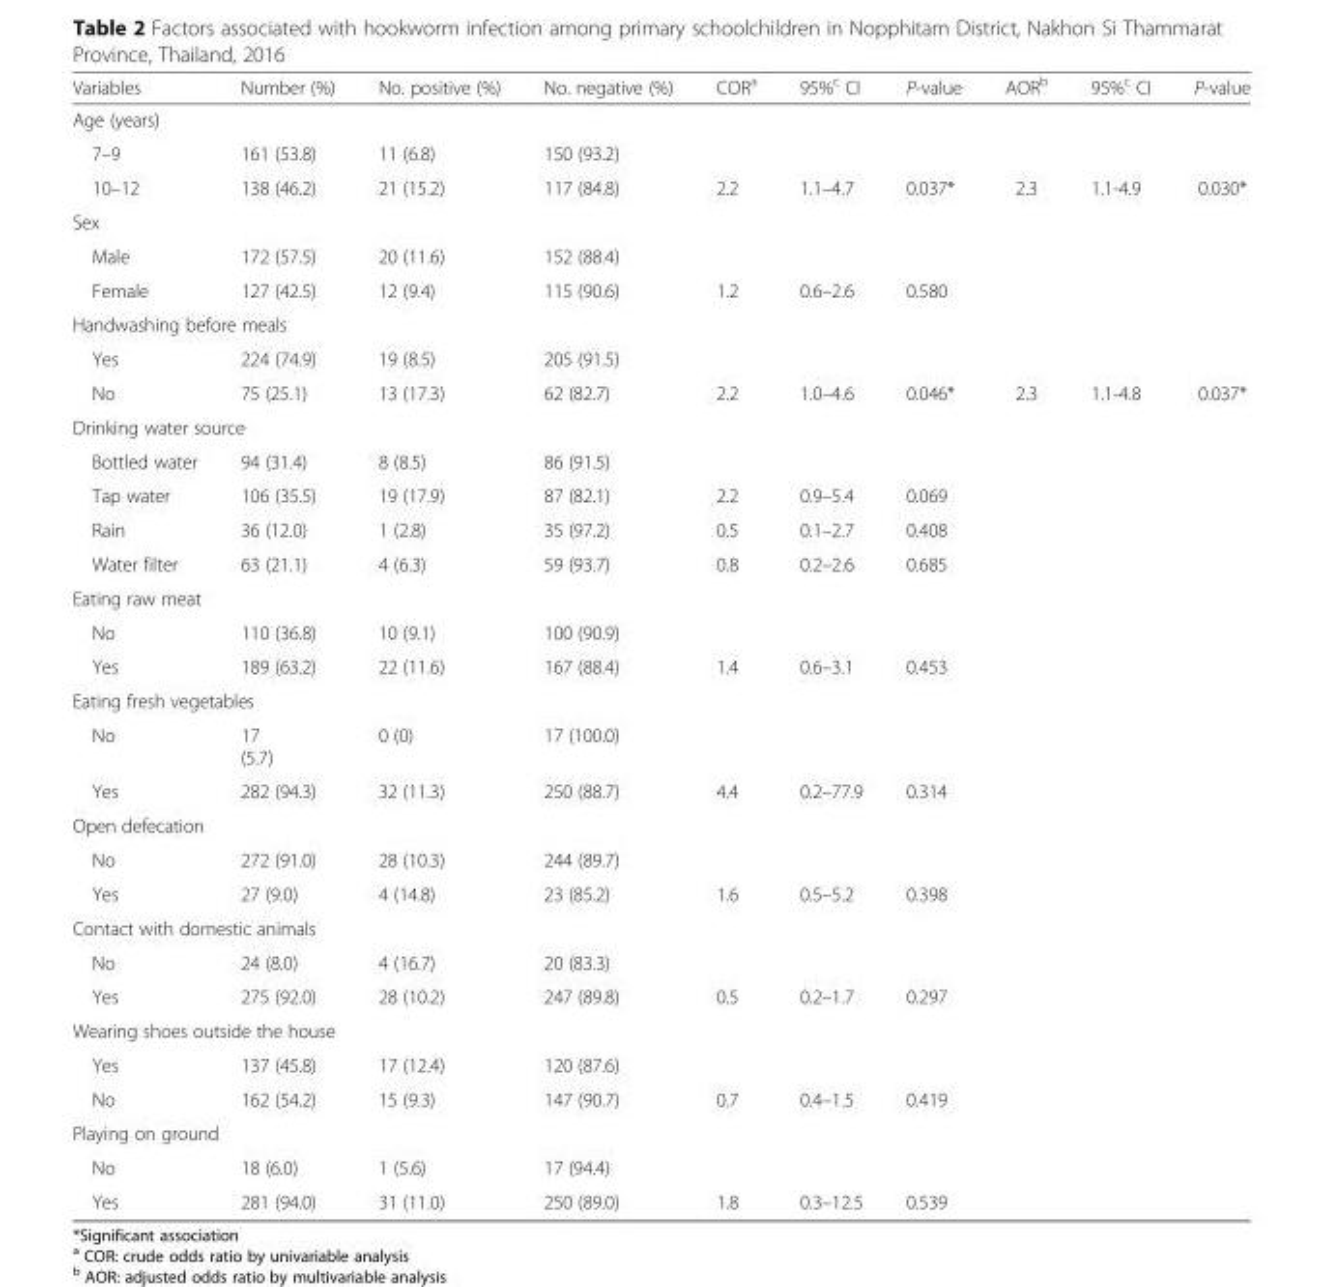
<table><thead><tr><td>Variables</td><td>Number (%)</td><td>No. positive (%)</td><td>No. negative (%)</td><td>COR<sup>a</sup></td><td>95%<sup>c</sup> CI</td><td>P-value</td><td>AOR<sup>b</sup></td><td>95%<sup>c</sup> CI</td><td>P-value</td></tr></thead><tbody><tr><td colspan="10">Age (years)</td></tr><tr><td>7–9</td><td>161 (53.8)</td><td>11 (6.8)</td><td>150 (93.2)</td><td></td><td></td><td></td><td></td><td></td><td></td></tr><tr><td>10–12</td><td>138 (46.2)</td><td>21 (15.2)</td><td>117 (84.8)</td><td>2.2</td><td>1.1–4.7</td><td>0.037*</td><td>2.3</td><td>1.1-4.9</td><td>0.030*</td></tr><tr><td colspan="10">Sex</td></tr><tr><td>Male</td><td>172 (57.5)</td><td>20 (11.6)</td><td>152 (88.4)</td><td></td><td></td><td></td><td></td><td></td><td></td></tr><tr><td>Female</td><td>127 (42.5)</td><td>12 (9.4)</td><td>115 (90.6)</td><td>1.2</td><td>0.6–2.6</td><td>0.580</td><td></td><td></td><td></td></tr><tr><td colspan="10">Handwashing before meals</td></tr><tr><td>Yes</td><td>224 (74.9)</td><td>19 (8.5)</td><td>205 (91.5)</td><td></td><td></td><td></td><td></td><td></td><td></td></tr><tr><td>No</td><td>75 (25.1)</td><td>13 (17.3)</td><td>62 (82.7)</td><td>2.2</td><td>1.0–4.6</td><td>0.046*</td><td>2.3</td><td>1.1-4.8</td><td>0.037*</td></tr><tr><td colspan="10">Drinking water source</td></tr><tr><td>Bottled water</td><td>94 (31.4)</td><td>8 (8.5)</td><td>86 (91.5)</td><td></td><td></td><td></td><td></td><td></td><td></td></tr><tr><td>Tap water</td><td>106 (35.5)</td><td>19 (17.9)</td><td>87 (82.1)</td><td>2.2</td><td>0.9–5.4</td><td>0.069</td><td></td><td></td><td></td></tr><tr><td>Rain</td><td>36 (12.0)</td><td>1 (2.8)</td><td>35 (97.2)</td><td>0.5</td><td>0.1–2.7</td><td>0.408</td><td></td><td></td><td></td></tr><tr><td>Water filter</td><td>63 (21.1)</td><td>4 (6.3)</td><td>59 (93.7)</td><td>0.8</td><td>0.2–2.6</td><td>0.685</td><td></td><td></td><td></td></tr><tr><td colspan="10">Eating raw meat</td></tr><tr><td>No</td><td>110 (36.8)</td><td>10 (9.1)</td><td>100 (90.9)</td><td></td><td></td><td></td><td></td><td></td><td></td></tr><tr><td>Yes</td><td>189 (63.2)</td><td>22 (11.6)</td><td>167 (88.4)</td><td>1.4</td><td>0.6–3.1</td><td>0.453</td><td></td><td></td><td></td></tr><tr><td colspan="10">Eating fresh vegetables</td></tr><tr><td>No</td><td>17 (5.7)</td><td>0 (0)</td><td>17 (100.0)</td><td></td><td></td><td></td><td></td><td></td><td></td></tr><tr><td>Yes</td><td>282 (94.3)</td><td>32 (11.3)</td><td>250 (88.7)</td><td>4.4</td><td>0.2–77.9</td><td>0.314</td><td></td><td></td><td></td></tr><tr><td colspan="10">Open defecation</td></tr><tr><td>No</td><td>272 (91.0)</td><td>28 (10.3)</td><td>244 (89.7)</td><td></td><td></td><td></td><td></td><td></td><td></td></tr><tr><td>Yes</td><td>27 (9.0)</td><td>4 (14.8)</td><td>23 (85.2)</td><td>1.6</td><td>0.5–5.2</td><td>0.398</td><td></td><td></td><td></td></tr><tr><td colspan="10">Contact with domestic animals</td></tr><tr><td>No</td><td>24 (8.0)</td><td>4 (16.7)</td><td>20 (83.3)</td><td></td><td></td><td></td><td></td><td></td><td></td></tr><tr><td>Yes</td><td>275 (92.0)</td><td>28 (10.2)</td><td>247 (89.8)</td><td>0.5</td><td>0.2–1.7</td><td>0.297</td><td></td><td></td><td></td></tr><tr><td colspan="10">Wearing shoes outside the house</td></tr><tr><td>Yes</td><td>137 (45.8)</td><td>17 (12.4)</td><td>120 (87.6)</td><td></td><td></td><td></td><td></td><td></td><td></td></tr><tr><td>No</td><td>162 (54.2)</td><td>15 (9.3)</td><td>147 (90.7)</td><td>0.7</td><td>0.4–1.5</td><td>0.419</td><td></td><td></td><td></td></tr><tr><td colspan="10">Playing on ground</td></tr><tr><td>No</td><td>18 (6.0)</td><td>1 (5.6)</td><td>17 (94.4)</td><td></td><td></td><td></td><td></td><td></td><td></td></tr><tr><td>Yes</td><td>281 (94.0)</td><td>31 (11.0)</td><td>250 (89.0)</td><td>1.8</td><td>0.3–12.5</td><td>0.539</td><td></td><td></td><td></td></tr></tbody></table>